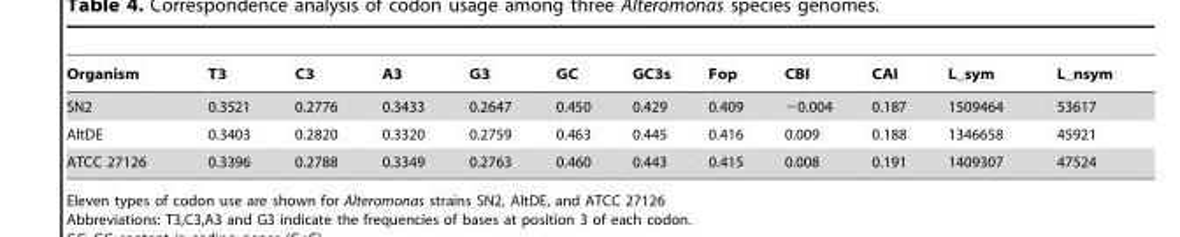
<table><thead><tr><td>Organism</td><td>T3</td><td>C3</td><td>A3</td><td>G3</td><td>GC</td><td>GC3s</td><td>Fop</td><td>CBI</td><td>CAI</td><td>L_sym</td><td>L_nsym</td></tr></thead><tbody><tr><td>SN2</td><td>0.3521</td><td>0.2776</td><td>0.3433</td><td>0.2647</td><td>0.450</td><td>0.429</td><td>0.409</td><td>−0.004</td><td>0.187</td><td>1509464</td><td>53617</td></tr><tr><td>AltDE</td><td>0.3403</td><td>0.2820</td><td>0.3320</td><td>0.2759</td><td>0.463</td><td>0.445</td><td>0.416</td><td>0.009</td><td>0.188</td><td>1346658</td><td>45921</td></tr><tr><td>ATCC 27126</td><td>0.3396</td><td>0.2788</td><td>0.3349</td><td>0.2763</td><td>0.460</td><td>0.443</td><td>0.415</td><td>0.008</td><td>0.191</td><td>1409307</td><td>47524</td></tr></tbody></table>